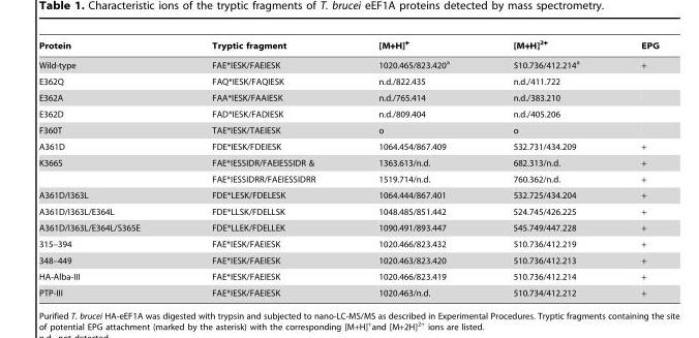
<table><thead><tr><td>Protein</td><td>Tryptic fragment</td><td>[M+H]<sup>+</sup></td><td>[M+H]<sup>2+</sup></td><td>EPG</td></tr></thead><tbody><tr><td>Wild-type</td><td>FAE*IESK/FAEIESK</td><td>1020.465/823.420<sup>a</sup></td><td>510.736/412.214<sup>a</sup></td><td>+</td></tr><tr><td>E362Q</td><td>FAQ*IESK/FAQIESK</td><td>n.d./822.435</td><td>n.d./411.722</td><td></td></tr><tr><td>E362A</td><td>FAA*IESK/FAAIESK</td><td>n.d./765.414</td><td>n.d./383.210</td><td></td></tr><tr><td>E362D</td><td>FAD*IESK/FADIESK</td><td>n.d./809.404</td><td>n.d./405.206</td><td></td></tr><tr><td>F360T</td><td>TAE*IESK/TAEIESK</td><td>o</td><td>o</td><td></td></tr><tr><td>A361D</td><td>FDE*IESK/FDEIESK</td><td>1064.454/867.409</td><td>532.731/434.209</td><td>+</td></tr><tr><td rowspan="2">K366S</td><td>FAE*IESSIDR/FAEIESSIDR &amp;</td><td>1363.613/n.d.</td><td>682.313/n.d.</td><td>+</td></tr><tr><td>FAE*IESSIDRR/FAEIESSIDRR</td><td>1519.714/n.d.</td><td>760.362/n.d.</td><td>+</td></tr><tr><td>A361D/I363L</td><td>FDE*LESK/FDELESK</td><td>1064.444/867.401</td><td>532.725/434.204</td><td>+</td></tr><tr><td>A361D/I363L/E364L</td><td>FDE*LLSK/FDELLSK</td><td>1048.485/851.442</td><td>524.745/426.225</td><td>+</td></tr><tr><td>A361D/I363L/E364L/S365E</td><td>FDE*LLEK/FDELLEK</td><td>1090.491/893.447</td><td>545.749/447.228</td><td>+</td></tr><tr><td>315–394</td><td>FAE*IESK/FAEIESK</td><td>1020.466/823.432</td><td>510.736/412.219</td><td>+</td></tr><tr><td>348–449</td><td>FAE*IESK/FAEIESK</td><td>1020.463/823.420</td><td>510.736/412.213</td><td>+</td></tr><tr><td>HA-Alba-III</td><td>FAE*IESK/FAEIESK</td><td>1020.466/823.419</td><td>510.736/412.214</td><td>+</td></tr><tr><td>PTP-III</td><td>FAE*IESK/FAEIESK</td><td>1020.463/n.d.</td><td>510.734/412.212</td><td>+</td></tr></tbody></table>